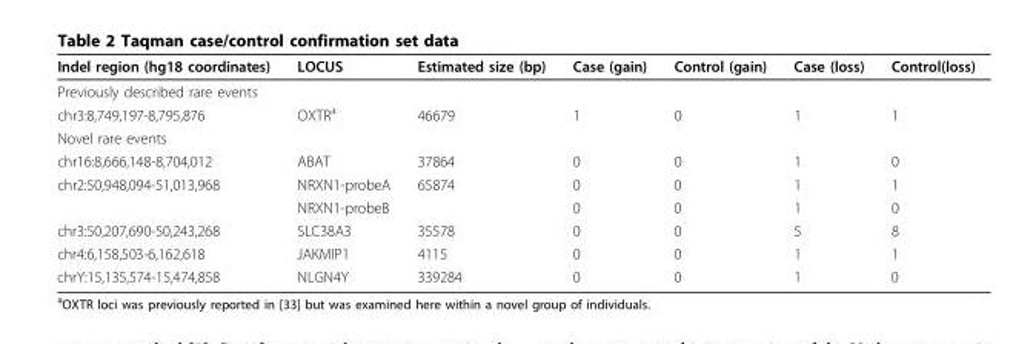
<table><thead><tr><td>Indel region (hg18 coordinates)</td><td>LOCUS</td><td>Estimated size (bp)</td><td>Case (gain)</td><td>Control (gain)</td><td>Case (loss)</td><td>Control(loss)</td></tr></thead><tbody><tr><td colspan="7">Previously described rare events</td></tr><tr><td>chr3:8,749,197-8,795,876</td><td>OXTR<sup>a</sup></td><td>46679</td><td>1</td><td>0</td><td>1</td><td>1</td></tr><tr><td colspan="7">Novel rare events</td></tr><tr><td>chr16:8,666,148-8,704,012</td><td>ABAT</td><td>37864</td><td>0</td><td>0</td><td>1</td><td>0</td></tr><tr><td rowspan="2">chr2:50,948,094-51,013,968</td><td>NRXN1-probeA</td><td>65874</td><td>0</td><td>0</td><td>1</td><td>1</td></tr><tr><td>NRXN1-probeB</td><td></td><td>0</td><td>0</td><td>1</td><td>0</td></tr><tr><td>chr3:50,207,690-50,243,268</td><td>SLC38A3</td><td>35578</td><td>0</td><td>0</td><td>5</td><td>8</td></tr><tr><td>chr4:6,158,503-6,162,618</td><td>JAKMIP1</td><td>4115</td><td>0</td><td>0</td><td>1</td><td>1</td></tr><tr><td>chrY:15,135,574-15,474,858</td><td>NLGN4Y</td><td>339284</td><td>0</td><td>0</td><td>1</td><td>0</td></tr></tbody></table>